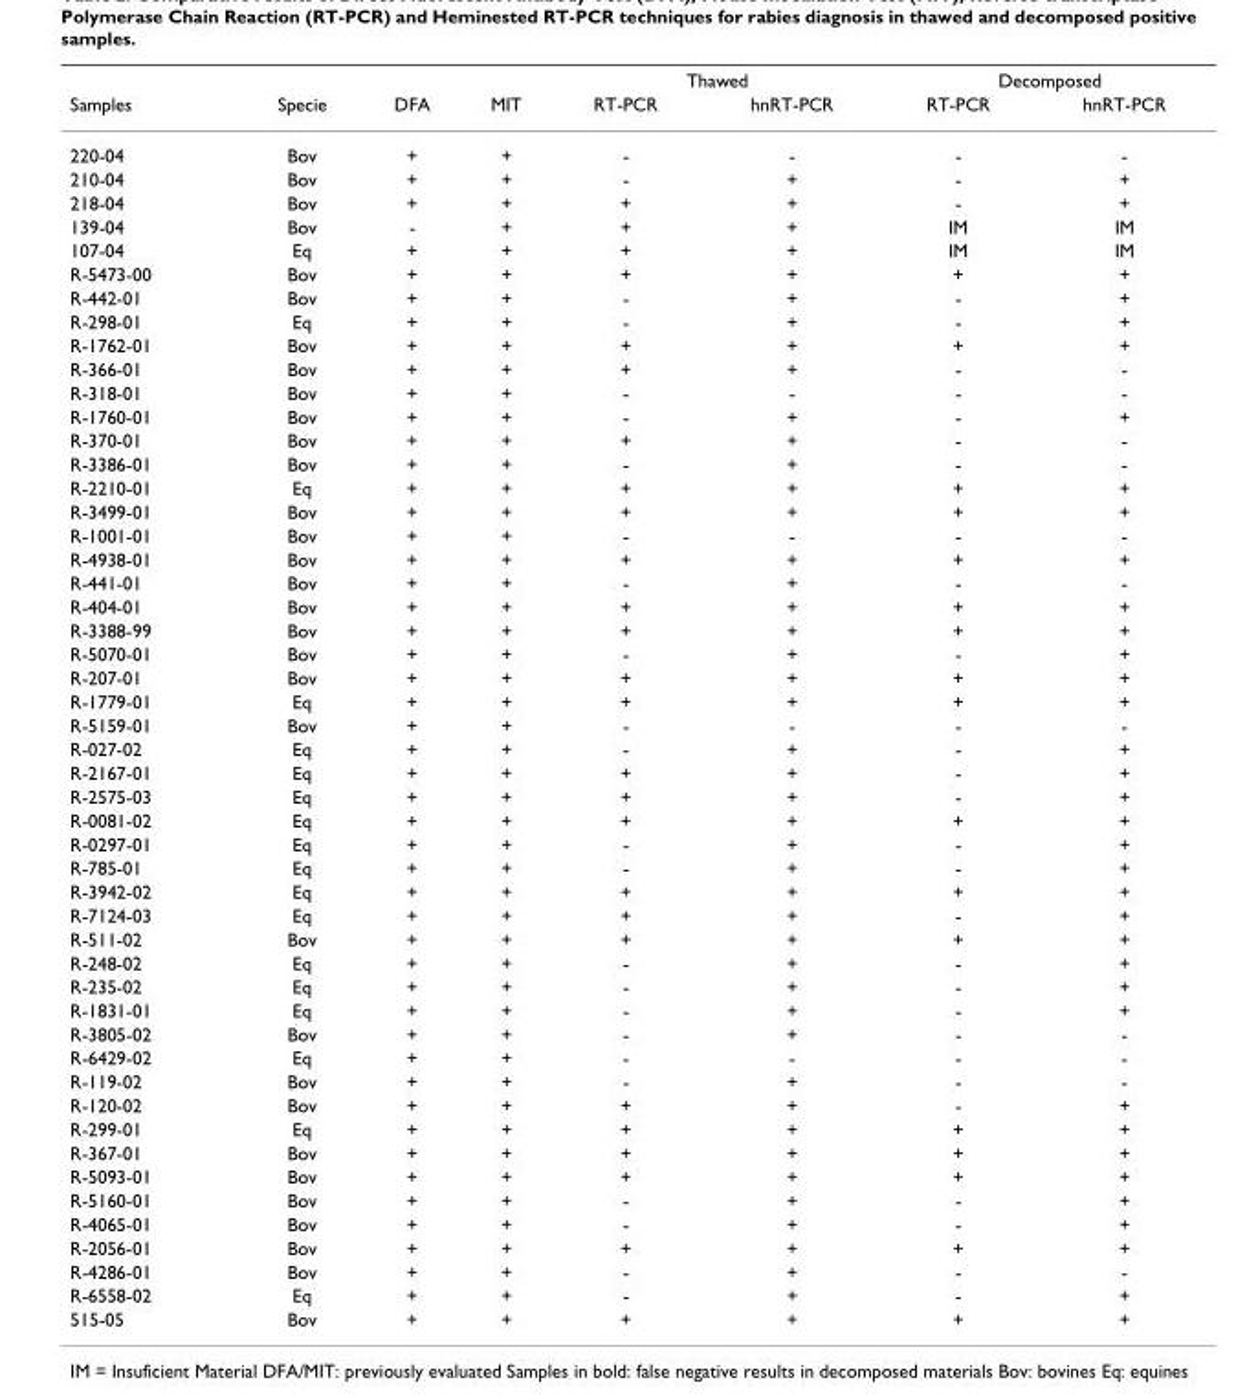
<table><thead><tr><td rowspan="2">Samples</td><td rowspan="2">Specie</td><td rowspan="2">DFA</td><td rowspan="2">MIT</td><td colspan="2">Thawed</td><td colspan="2">Decomposed</td></tr><tr><td>RT-PCR</td><td>hnRT-PCR</td><td>RT-PCR</td><td>hnRT-PCR</td></tr></thead><tbody><tr><td>220-04</td><td>Bov</td><td>+</td><td>+</td><td>-</td><td>-</td><td>-</td><td>-</td></tr><tr><td>210-04</td><td>Bov</td><td>+</td><td>+</td><td>-</td><td>+</td><td>-</td><td>+</td></tr><tr><td>218-04</td><td>Bov</td><td>+</td><td>+</td><td>+</td><td>+</td><td>-</td><td>+</td></tr><tr><td>139-04</td><td>Bov</td><td>-</td><td>+</td><td>+</td><td>+</td><td>IM</td><td>IM</td></tr><tr><td>107-04</td><td>Eq</td><td>+</td><td>+</td><td>+</td><td>+</td><td>IM</td><td>IM</td></tr><tr><td>R-5473-00</td><td>Bov</td><td>+</td><td>+</td><td>+</td><td>+</td><td>+</td><td>+</td></tr><tr><td>R-442-01</td><td>Bov</td><td>+</td><td>+</td><td>-</td><td>+</td><td>-</td><td>+</td></tr><tr><td>R-298-01</td><td>Eq</td><td>+</td><td>+</td><td>-</td><td>+</td><td>-</td><td>+</td></tr><tr><td>R-1762-01</td><td>Bov</td><td>+</td><td>+</td><td>+</td><td>+</td><td>+</td><td>+</td></tr><tr><td>R-366-01</td><td>Bov</td><td>+</td><td>+</td><td>+</td><td>+</td><td>-</td><td>-</td></tr><tr><td>R-318-01</td><td>Bov</td><td>+</td><td>+</td><td>-</td><td>-</td><td>-</td><td>-</td></tr><tr><td>R-1760-01</td><td>Bov</td><td>+</td><td>+</td><td>-</td><td>+</td><td>-</td><td>+</td></tr><tr><td>R-370-01</td><td>Bov</td><td>+</td><td>+</td><td>+</td><td>+</td><td>-</td><td>-</td></tr><tr><td>R-3386-01</td><td>Bov</td><td>+</td><td>+</td><td>-</td><td>+</td><td>-</td><td>-</td></tr><tr><td>R-2210-01</td><td>Eq</td><td>+</td><td>+</td><td>+</td><td>+</td><td>+</td><td>+</td></tr><tr><td>R-3499-01</td><td>Bov</td><td>+</td><td>+</td><td>+</td><td>+</td><td>+</td><td>+</td></tr><tr><td>R-1001-01</td><td>Bov</td><td>+</td><td>+</td><td>-</td><td>-</td><td>-</td><td>-</td></tr><tr><td>R-4938-01</td><td>Bov</td><td>+</td><td>+</td><td>+</td><td>+</td><td>+</td><td>+</td></tr><tr><td>R-441-01</td><td>Bov</td><td>+</td><td>+</td><td>-</td><td>+</td><td>-</td><td>-</td></tr><tr><td>R-404-01</td><td>Bov</td><td>+</td><td>+</td><td>+</td><td>+</td><td>+</td><td>+</td></tr><tr><td>R-3388-99</td><td>Bov</td><td>+</td><td>+</td><td>+</td><td>+</td><td>+</td><td>+</td></tr><tr><td>R-5070-01</td><td>Bov</td><td>+</td><td>+</td><td>-</td><td>+</td><td>-</td><td>+</td></tr><tr><td>R-207-01</td><td>Bov</td><td>+</td><td>+</td><td>+</td><td>+</td><td>+</td><td>+</td></tr><tr><td>R-1779-01</td><td>Eq</td><td>+</td><td>+</td><td>+</td><td>+</td><td>+</td><td>+</td></tr><tr><td>R-5159-01</td><td>Bov</td><td>+</td><td>+</td><td>-</td><td>-</td><td>-</td><td>-</td></tr><tr><td>R-027-02</td><td>Eq</td><td>+</td><td>+</td><td>-</td><td>+</td><td>-</td><td>+</td></tr><tr><td>R-2167-01</td><td>Eq</td><td>+</td><td>+</td><td>+</td><td>+</td><td>-</td><td>+</td></tr><tr><td>R-2575-03</td><td>Eq</td><td>+</td><td>+</td><td>+</td><td>+</td><td>-</td><td>+</td></tr><tr><td>R-0081-02</td><td>Eq</td><td>+</td><td>+</td><td>+</td><td>+</td><td>+</td><td>+</td></tr><tr><td>R-0297-01</td><td>Eq</td><td>+</td><td>+</td><td>-</td><td>+</td><td>-</td><td>+</td></tr><tr><td>R-785-01</td><td>Eq</td><td>+</td><td>+</td><td>-</td><td>+</td><td>-</td><td>+</td></tr><tr><td>R-3942-02</td><td>Eq</td><td>+</td><td>+</td><td>+</td><td>+</td><td>+</td><td>+</td></tr><tr><td>R-7124-03</td><td>Eq</td><td>+</td><td>+</td><td>+</td><td>+</td><td>-</td><td>+</td></tr><tr><td>R-511-02</td><td>Bov</td><td>+</td><td>+</td><td>+</td><td>+</td><td>+</td><td>+</td></tr><tr><td>R-248-02</td><td>Eq</td><td>+</td><td>+</td><td>-</td><td>+</td><td>-</td><td>+</td></tr><tr><td>R-235-02</td><td>Eq</td><td>+</td><td>+</td><td>-</td><td>+</td><td>-</td><td>+</td></tr><tr><td>R-1831-01</td><td>Eq</td><td>+</td><td>+</td><td>-</td><td>+</td><td>-</td><td>+</td></tr><tr><td>R-3805-02</td><td>Bov</td><td>+</td><td>+</td><td>-</td><td>+</td><td>-</td><td>-</td></tr><tr><td>R-6429-02</td><td>Eq</td><td>+</td><td>+</td><td>-</td><td>-</td><td>-</td><td>-</td></tr><tr><td>R-119-02</td><td>Bov</td><td>+</td><td>+</td><td>-</td><td>+</td><td>-</td><td>-</td></tr><tr><td>R-120-02</td><td>Bov</td><td>+</td><td>+</td><td>+</td><td>+</td><td>-</td><td>+</td></tr><tr><td>R-299-01</td><td>Eq</td><td>+</td><td>+</td><td>+</td><td>+</td><td>+</td><td>+</td></tr><tr><td>R-367-01</td><td>Bov</td><td>+</td><td>+</td><td>+</td><td>+</td><td>+</td><td>+</td></tr><tr><td>R-5093-01</td><td>Bov</td><td>+</td><td>+</td><td>+</td><td>+</td><td>+</td><td>+</td></tr><tr><td>R-5160-01</td><td>Bov</td><td>+</td><td>+</td><td>-</td><td>+</td><td>-</td><td>+</td></tr><tr><td>R-4065-01</td><td>Bov</td><td>+</td><td>+</td><td>-</td><td>+</td><td>-</td><td>+</td></tr><tr><td>R-2056-01</td><td>Bov</td><td>+</td><td>+</td><td>+</td><td>+</td><td>+</td><td>+</td></tr><tr><td>R-4286-01</td><td>Bov</td><td>+</td><td>+</td><td>-</td><td>+</td><td>-</td><td>-</td></tr><tr><td>R-6558-02</td><td>Eq</td><td>+</td><td>+</td><td>-</td><td>+</td><td>-</td><td>+</td></tr><tr><td>515-05</td><td>Bov</td><td>+</td><td>+</td><td>+</td><td>+</td><td>+</td><td>+</td></tr></tbody></table>